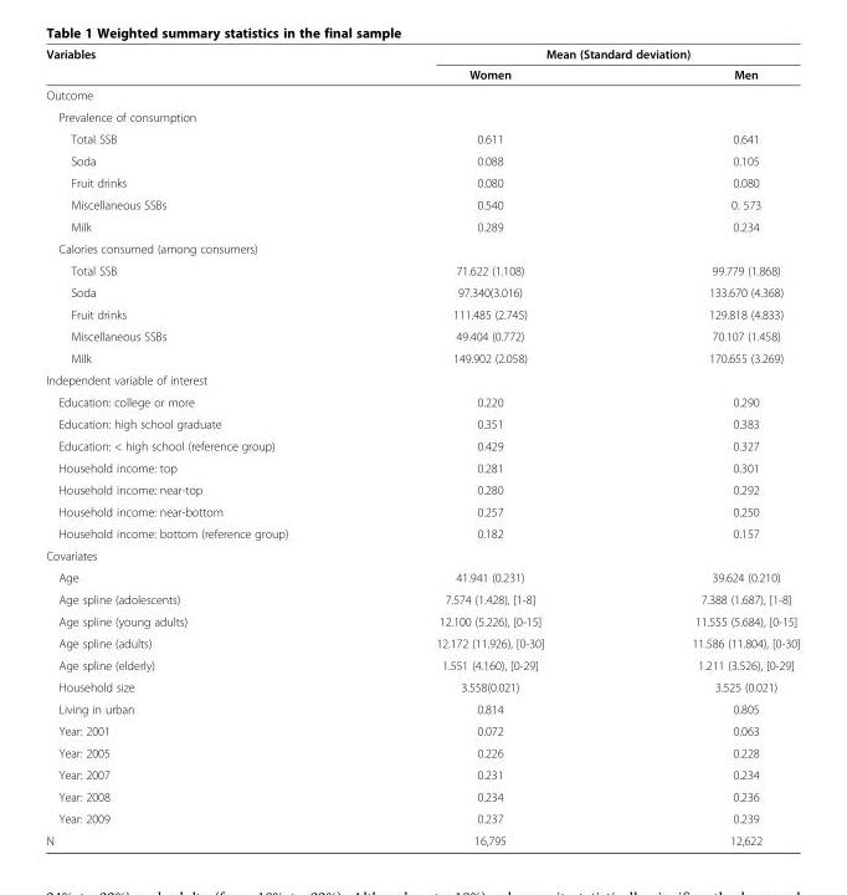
<table><thead><tr><td rowspan="2">Variables</td><td colspan="2">Mean (Standard deviation)</td></tr><tr><td>Women</td><td>Men</td></tr></thead><tbody><tr><td colspan="3">Outcome</td></tr><tr><td colspan="3">Prevalence of consumption</td></tr><tr><td>Total SSB</td><td>0.611</td><td>0.641</td></tr><tr><td>Soda</td><td>0.088</td><td>0.105</td></tr><tr><td>Fruit drinks</td><td>0.080</td><td>0.080</td></tr><tr><td>Miscellaneous SSBs</td><td>0.540</td><td>0. 573</td></tr><tr><td>Milk</td><td>0.289</td><td>0.234</td></tr><tr><td colspan="3">Calories consumed (among consumers)</td></tr><tr><td>Total SSB</td><td>71.622 (1.108)</td><td>99.779 (1.868)</td></tr><tr><td>Soda</td><td>97.340(3.016)</td><td>133.670 (4.368)</td></tr><tr><td>Fruit drinks</td><td>111.485 (2.745)</td><td>129.818 (4.833)</td></tr><tr><td>Miscellaneous SSBs</td><td>49.404 (0.772)</td><td>70.107 (1.458)</td></tr><tr><td>Milk</td><td>149.902 (2.058)</td><td>170.655 (3.269)</td></tr><tr><td colspan="3">Independent variable of interest</td></tr><tr><td>Education: college or more</td><td>0.220</td><td>0.290</td></tr><tr><td>Education: high school graduate</td><td>0.351</td><td>0.383</td></tr><tr><td>Education: &lt; high school (reference group)</td><td>0.429</td><td>0.327</td></tr><tr><td>Household income: top</td><td>0.281</td><td>0.301</td></tr><tr><td>Household income: near-top</td><td>0.280</td><td>0.292</td></tr><tr><td>Household income: near-bottom</td><td>0.257</td><td>0.250</td></tr><tr><td>Household income: bottom (reference group)</td><td>0.182</td><td>0.157</td></tr><tr><td colspan="3">Covariates</td></tr><tr><td>Age</td><td>41.941 (0.231)</td><td>39.624 (0.210)</td></tr><tr><td>Age spline (adolescents)</td><td>7.574 (1.428), [1-8]</td><td>7.388 (1.687), [1-8]</td></tr><tr><td>Age spline (young adults)</td><td>12.100 (5.226), [0-15]</td><td>11.555 (5.684), [0-15]</td></tr><tr><td>Age spline (adults)</td><td>12.172 (11.926), [0-30]</td><td>11.586 (11.804), [0-30]</td></tr><tr><td>Age spline (elderly)</td><td>1.551 (4.160), [0-29]</td><td>1.211 (3.526), [0-29]</td></tr><tr><td>Household size</td><td>3.558(0.021)</td><td>3.525 (0.021)</td></tr><tr><td>Living in urban</td><td>0.814</td><td>0.805</td></tr><tr><td>Year: 2001</td><td>0.072</td><td>0.063</td></tr><tr><td>Year: 2005</td><td>0.226</td><td>0.228</td></tr><tr><td>Year: 2007</td><td>0.231</td><td>0.234</td></tr><tr><td>Year: 2008</td><td>0.234</td><td>0.236</td></tr><tr><td>Year: 2009</td><td>0.237</td><td>0.239</td></tr><tr><td>N</td><td>16,795</td><td>12,622</td></tr></tbody></table>